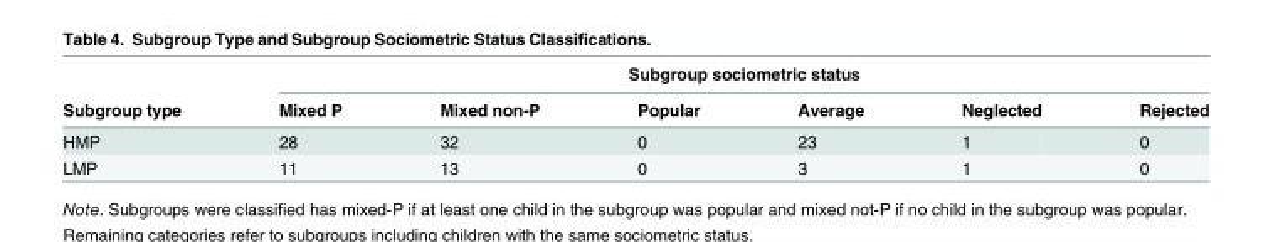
<table><thead><tr><td rowspan="2">Subgroup type</td><td colspan="6">Subgroup sociometric status</td></tr><tr><td>Mixed P</td><td>Mixed non-P</td><td>Popular</td><td>Average</td><td>Neglected</td><td>Rejected</td></tr></thead><tbody><tr><td>HMP</td><td>28</td><td>32</td><td>0</td><td>23</td><td>1</td><td>0</td></tr><tr><td>LMP</td><td>11</td><td>13</td><td>0</td><td>3</td><td>1</td><td>0</td></tr></tbody></table>